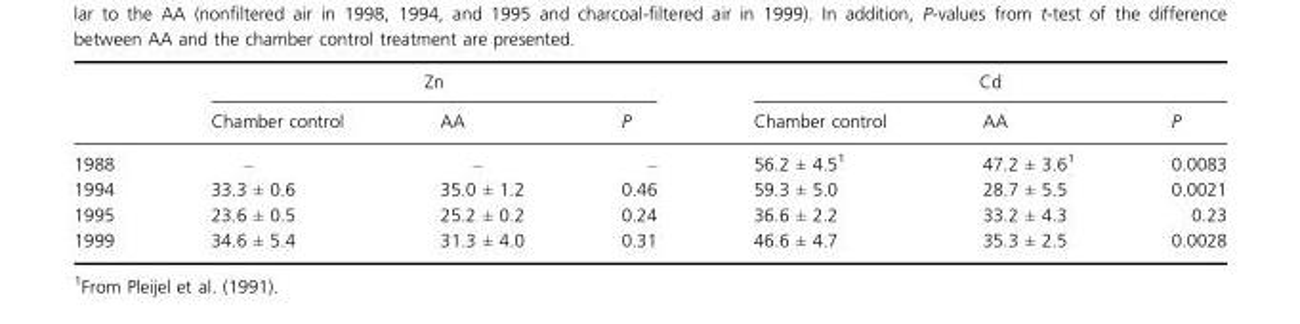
<table><thead><tr><td rowspan="2"></td><td colspan="3">Zn</td><td colspan="3">Cd</td></tr><tr><td>Chamber control</td><td>AA</td><td>P</td><td>Chamber control</td><td>AA</td><td>P</td></tr></thead><tbody><tr><td>1988</td><td>–</td><td>–</td><td>–</td><td>56.2 ± 4.5<sup>1</sup></td><td>47.2 ± 3.6<sup>1</sup></td><td>0.0083</td></tr><tr><td>1994</td><td>33.3 ± 0.6</td><td>35.0 ± 1.2</td><td>0.46</td><td>59.3 ± 5.0</td><td>28.7 ± 5.5</td><td>0.0021</td></tr><tr><td>1995</td><td>23.6 ± 0.5</td><td>25.2 ± 0.2</td><td>0.24</td><td>36.6 ± 2.2</td><td>33.2 ± 4.3</td><td>0.23</td></tr><tr><td>1999</td><td>34.6 ± 5.4</td><td>31.3 ± 4.0</td><td>0.31</td><td>46.6 ± 4.7</td><td>35.3 ± 2.5</td><td>0.0028</td></tr></tbody></table>